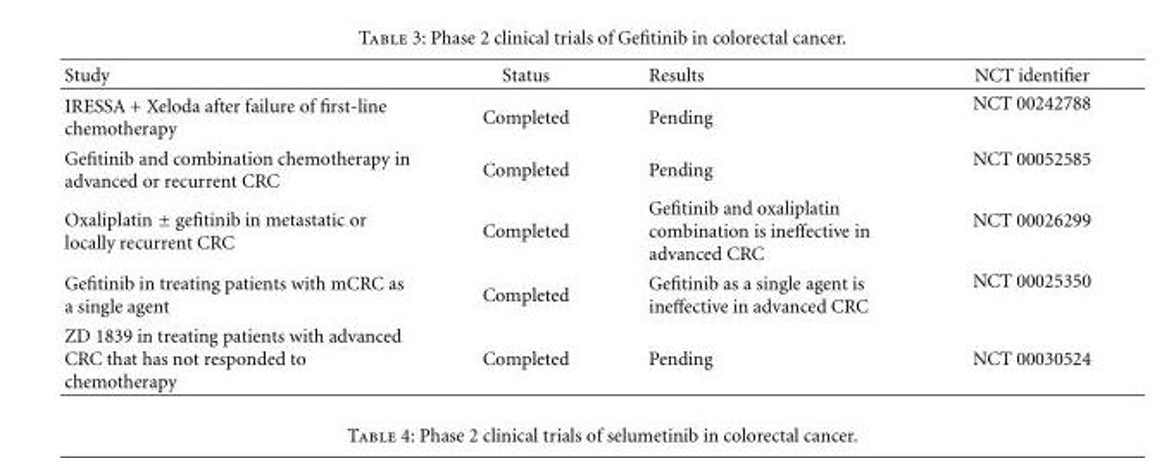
<table><thead><tr><td>Study</td><td>Status</td><td>Results</td><td>NCT identifier</td></tr></thead><tbody><tr><td>IRESSA + Xeloda after failure of first-line chemotherapy</td><td>Completed</td><td>Pending</td><td>NCT 00242788</td></tr><tr><td>Gefitinib and combination chemotherapy in advanced or recurrent CRC</td><td>Completed</td><td>Pending</td><td>NCT 00052585</td></tr><tr><td>Oxaliplatin ± gefitinib in metastatic or locally recurrent CRC</td><td>Completed</td><td>Gefitinib and oxaliplatin combination is ineffective in advanced CRC</td><td>NCT 00026299</td></tr><tr><td>Gefitinib in treating patients with mCRC as a single agent</td><td>Completed</td><td>Gefitinib as a single agent is ineffective in advanced CRC</td><td>NCT 00025350</td></tr><tr><td>ZD 1839 in treating patients with advanced CRC that has not responded to chemotherapy</td><td>Completed</td><td>Pending</td><td>NCT 00030524</td></tr></tbody></table>